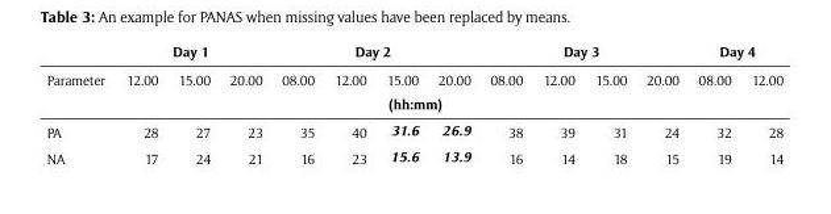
<table><thead><tr><td rowspan="2">Parameter</td><td colspan="3">Day 1</td><td colspan="4">Day 2</td><td colspan="4">Day 3</td><td colspan="2">Day 4</td></tr><tr><td>12.00</td><td>15.00</td><td>20.00</td><td>08.00</td><td>12.00</td><td>15.00</td><td>20.00</td><td>08.00</td><td>12.00</td><td>15.00</td><td>20.00</td><td>08.00</td><td>12.00</td></tr></thead><tbody><tr><td colspan="14">(hh:mm)</td></tr><tr><td>PA</td><td>28</td><td>27</td><td>23</td><td>35</td><td>40</td><td>31.6</td><td>26.9</td><td>38</td><td>39</td><td>31</td><td>24</td><td>32</td><td>28</td></tr><tr><td>NA</td><td>17</td><td>24</td><td>21</td><td>16</td><td>23</td><td>15.6</td><td>13.9</td><td>16</td><td>14</td><td>18</td><td>15</td><td>19</td><td>14</td></tr></tbody></table>